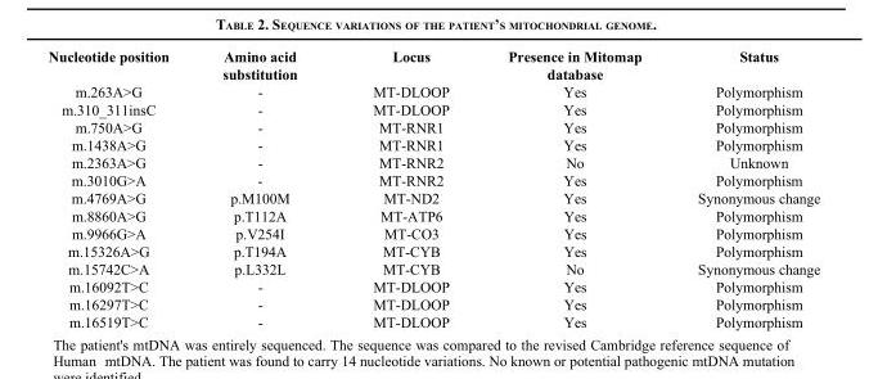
<table><thead><tr><td>Nucleotide position</td><td>Amino acid substitution</td><td>Locus</td><td>Presence in Mitomap database</td><td>Status</td></tr></thead><tbody><tr><td>m.263A&gt;G</td><td>-</td><td>MT-DLOOP</td><td>Yes</td><td>Polymorphism</td></tr><tr><td>m.310_311insC</td><td>-</td><td>MT-DLOOP</td><td>Yes</td><td>Polymorphism</td></tr><tr><td>m.750A&gt;G</td><td>-</td><td>MT-RNR1</td><td>Yes</td><td>Polymorphism</td></tr><tr><td>m.1438A&gt;G</td><td>-</td><td>MT-RNR1</td><td>Yes</td><td>Polymorphism</td></tr><tr><td>m.2363A&gt;G</td><td>-</td><td>MT-RNR2</td><td>No</td><td>Unknown</td></tr><tr><td>m.3010G&gt;A</td><td>-</td><td>MT-RNR2</td><td>Yes</td><td>Polymorphism</td></tr><tr><td>m.4769A&gt;G</td><td>p.M100M</td><td>MT-ND2</td><td>Yes</td><td>Synonymous change</td></tr><tr><td>m.8860A&gt;G</td><td>p.T112A</td><td>MT-ATP6</td><td>Yes</td><td>Polymorphism</td></tr><tr><td>m.9966G&gt;A</td><td>p.V254I</td><td>MT-CO3</td><td>Yes</td><td>Polymorphism</td></tr><tr><td>m.15326A&gt;G</td><td>p.T194A</td><td>MT-CYB</td><td>Yes</td><td>Polymorphism</td></tr><tr><td>m.15742C&gt;A</td><td>p.L332L</td><td>MT-CYB</td><td>No</td><td>Synonymous change</td></tr><tr><td>m.16092T&gt;C</td><td>-</td><td>MT-DLOOP</td><td>Yes</td><td>Polymorphism</td></tr><tr><td>m.16297T&gt;C</td><td>-</td><td>MT-DLOOP</td><td>Yes</td><td>Polymorphism</td></tr><tr><td>m.16519T&gt;C</td><td>-</td><td>MT-DLOOP</td><td>Yes</td><td>Polymorphism</td></tr></tbody></table>